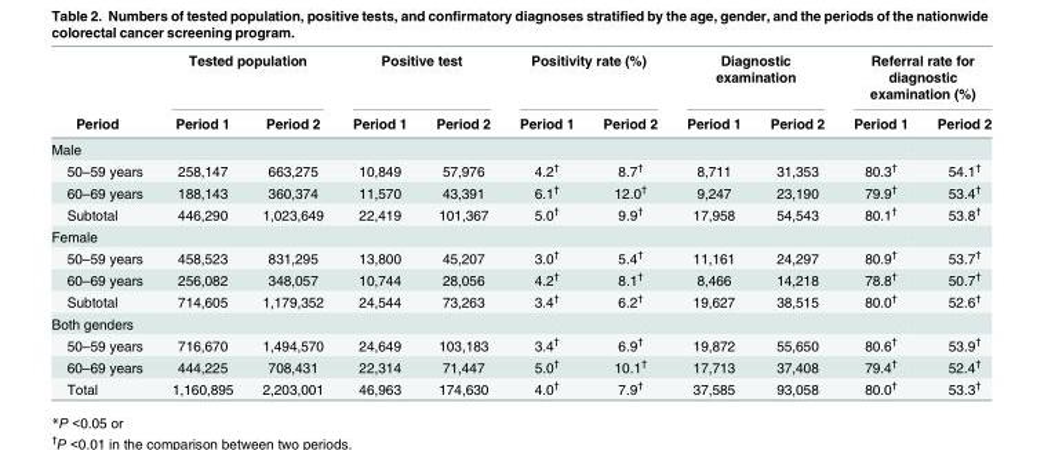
<table><thead><tr><td rowspan="2">Period</td><td colspan="2">Tested population</td><td colspan="2">Positive test</td><td colspan="2">Positivity rate (%)</td><td colspan="2">Diagnostic examination</td><td colspan="2">Referral rate for diagnostic examination (%)</td></tr><tr><td>Period 1</td><td>Period 2</td><td>Period 1</td><td>Period 2</td><td>Period 1</td><td>Period 2</td><td>Period 1</td><td>Period 2</td><td>Period 1</td><td>Period 2</td></tr></thead><tbody><tr><td colspan="11">Male</td></tr><tr><td>50–59 years</td><td>258,147</td><td>663,275</td><td>10,849</td><td>57,976</td><td>4.2<sup>†</sup></td><td>8.7<sup>†</sup></td><td>8,711</td><td>31,353</td><td>80.3<sup>†</sup></td><td>54.1<sup>†</sup></td></tr><tr><td>60–69 years</td><td>188,143</td><td>360,374</td><td>11,570</td><td>43,391</td><td>6.1<sup>†</sup></td><td>12.0<sup>†</sup></td><td>9,247</td><td>23,190</td><td>79.9<sup>†</sup></td><td>53.4<sup>†</sup></td></tr><tr><td>Subtotal</td><td>446,290</td><td>1,023,649</td><td>22,419</td><td>101,367</td><td>5.0<sup>†</sup></td><td>9.9<sup>†</sup></td><td>17,958</td><td>54,543</td><td>80.1<sup>†</sup></td><td>53.8<sup>†</sup></td></tr><tr><td colspan="11">Female</td></tr><tr><td>50–59 years</td><td>458,523</td><td>831,295</td><td>13,800</td><td>45,207</td><td>3.0<sup>†</sup></td><td>5.4<sup>†</sup></td><td>11,161</td><td>24,297</td><td>80.9<sup>†</sup></td><td>53.7<sup>†</sup></td></tr><tr><td>60–69 years</td><td>256,082</td><td>348,057</td><td>10,744</td><td>28,056</td><td>4.2<sup>†</sup></td><td>8.1<sup>†</sup></td><td>8,466</td><td>14,218</td><td>78.8<sup>†</sup></td><td>50.7<sup>†</sup></td></tr><tr><td>Subtotal</td><td>714,605</td><td>1,179,352</td><td>24,544</td><td>73,263</td><td>3.4<sup>†</sup></td><td>6.2<sup>†</sup></td><td>19,627</td><td>38,515</td><td>80.0<sup>†</sup></td><td>52.6<sup>†</sup></td></tr><tr><td colspan="11">Both genders</td></tr><tr><td>50–59 years</td><td>716,670</td><td>1,494,570</td><td>24,649</td><td>103,183</td><td>3.4<sup>†</sup></td><td>6.9<sup>†</sup></td><td>19,872</td><td>55,650</td><td>80.6<sup>†</sup></td><td>53.9<sup>†</sup></td></tr><tr><td>60–69 years</td><td>444,225</td><td>708,431</td><td>22,314</td><td>71,447</td><td>5.0<sup>†</sup></td><td>10.1<sup>†</sup></td><td>17,713</td><td>37,408</td><td>79.4<sup>†</sup></td><td>52.4<sup>†</sup></td></tr><tr><td>Total</td><td>1,160,895</td><td>2,203,001</td><td>46,963</td><td>174,630</td><td>4.0<sup>†</sup></td><td>7.9<sup>†</sup></td><td>37,585</td><td>93,058</td><td>80.0<sup>†</sup></td><td>53.3<sup>†</sup></td></tr></tbody></table>